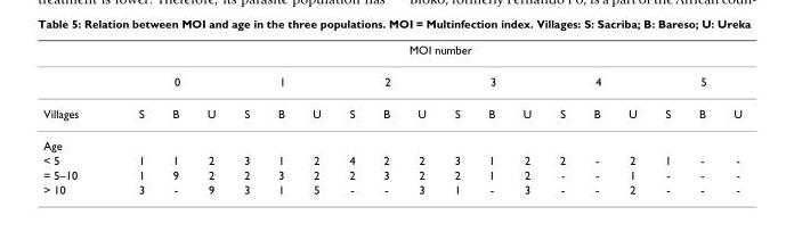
<table><thead><tr><td rowspan="3">Villages</td><td colspan="18">MOI number</td></tr><tr><td colspan="3">0</td><td colspan="3">1</td><td colspan="3">2</td><td colspan="3">3</td><td colspan="3">4</td><td colspan="3">5</td></tr><tr><td>S</td><td>B</td><td>U</td><td>S</td><td>B</td><td>U</td><td>S</td><td>B</td><td>U</td><td>S</td><td>B</td><td>U</td><td>S</td><td>B</td><td>U</td><td>S</td><td>B</td><td>U</td></tr></thead><tbody><tr><td colspan="19">Age</td></tr><tr><td>&lt; 5</td><td>1</td><td>1</td><td>2</td><td>3</td><td>1</td><td>2</td><td>4</td><td>2</td><td>2</td><td>3</td><td>1</td><td>2</td><td>2</td><td>-</td><td>2</td><td>1</td><td>-</td><td>-</td></tr><tr><td>= 5–10</td><td>1</td><td>9</td><td>2</td><td>2</td><td>3</td><td>2</td><td>2</td><td>3</td><td>2</td><td>2</td><td>1</td><td>2</td><td>-</td><td>-</td><td>1</td><td>-</td><td>-</td><td>-</td></tr><tr><td>&gt; 10</td><td>3</td><td>-</td><td>9</td><td>3</td><td>1</td><td>5</td><td>-</td><td>-</td><td>3</td><td>1</td><td>-</td><td>3</td><td>-</td><td>-</td><td>2</td><td>-</td><td>-</td><td>-</td></tr></tbody></table>